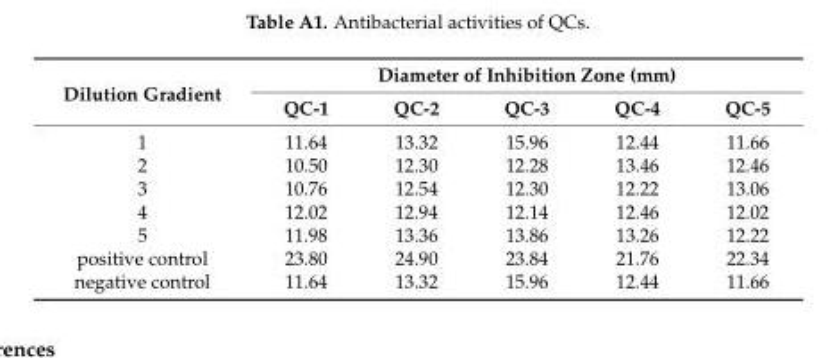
<table><thead><tr><td rowspan="2">Dilution Gradient</td><td colspan="5">Diameter of Inhibition Zone (mm)</td></tr><tr><td>QC-1</td><td>QC-2</td><td>QC-3</td><td>QC-4</td><td>QC-5</td></tr></thead><tbody><tr><td>1</td><td>11.64</td><td>13.32</td><td>15.96</td><td>12.44</td><td>11.66</td></tr><tr><td>2</td><td>10.50</td><td>12.30</td><td>12.28</td><td>13.46</td><td>12.46</td></tr><tr><td>3</td><td>10.76</td><td>12.54</td><td>12.30</td><td>12.22</td><td>13.06</td></tr><tr><td>4</td><td>12.02</td><td>12.94</td><td>12.14</td><td>12.46</td><td>12.02</td></tr><tr><td>5</td><td>11.98</td><td>13.36</td><td>13.86</td><td>13.26</td><td>12.22</td></tr><tr><td>positive control</td><td>23.80</td><td>24.90</td><td>23.84</td><td>21.76</td><td>22.34</td></tr><tr><td>negative control</td><td>11.64</td><td>13.32</td><td>15.96</td><td>12.44</td><td>11.66</td></tr></tbody></table>